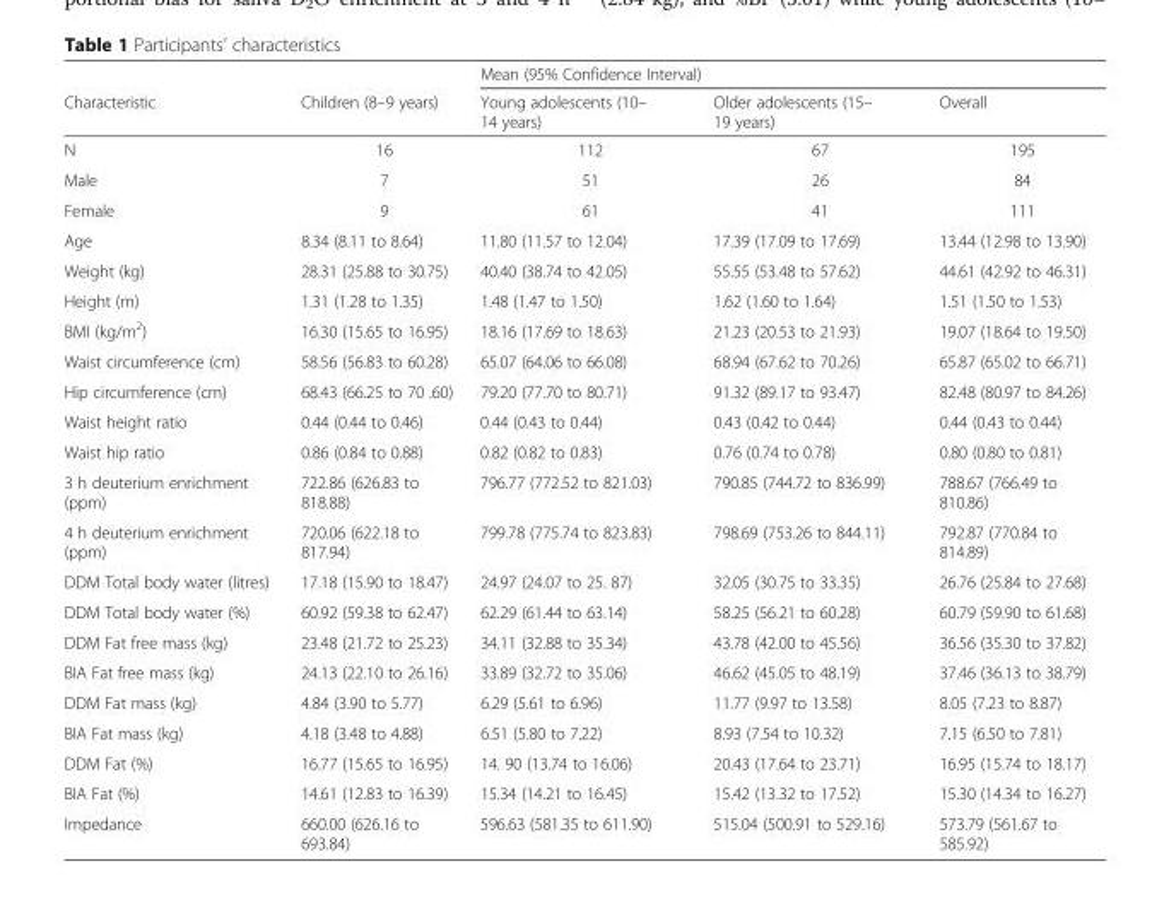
<table><thead><tr><td rowspan="2">Characteristic</td><td rowspan="2">Children (8–9 years)</td><td colspan="3">Mean (95% Confidence Interval)</td></tr><tr><td>Young adolescents (10– 14 years)</td><td>Older adolescents (15– 19 years)</td><td>Overall</td></tr></thead><tbody><tr><td>N</td><td>16</td><td>112</td><td>67</td><td>195</td></tr><tr><td>Male</td><td>7</td><td>51</td><td>26</td><td>84</td></tr><tr><td>Female</td><td>9</td><td>61</td><td>41</td><td>111</td></tr><tr><td>Age</td><td>8.34 (8.11 to 8.64)</td><td>11.80 (11.57 to 12.04)</td><td>17.39 (17.09 to 17.69)</td><td>13.44 (12.98 to 13.90)</td></tr><tr><td>Weight (kg)</td><td>28.31 (25.88 to 30.75)</td><td>40.40 (38.74 to 42.05)</td><td>55.55 (53.48 to 57.62)</td><td>44.61 (42.92 to 46.31)</td></tr><tr><td>Height (m)</td><td>1.31 (1.28 to 1.35)</td><td>1.48 (1.47 to 1.50)</td><td>1.62 (1.60 to 1.64)</td><td>1.51 (1.50 to 1.53)</td></tr><tr><td>BMI (kg/m<sup>2</sup>)</td><td>16.30 (15.65 to 16.95)</td><td>18.16 (17.69 to 18.63)</td><td>21.23 (20.53 to 21.93)</td><td>19.07 (18.64 to 19.50)</td></tr><tr><td>Waist circumference (cm)</td><td>58.56 (56.83 to 60.28)</td><td>65.07 (64.06 to 66.08)</td><td>68.94 (67.62 to 70.26)</td><td>65.87 (65.02 to 66.71)</td></tr><tr><td>Hip circumference (cm)</td><td>68.43 (66.25 to 70 .60)</td><td>79.20 (77.70 to 80.71)</td><td>91.32 (89.17 to 93.47)</td><td>82.48 (80.97 to 84.26)</td></tr><tr><td>Waist height ratio</td><td>0.44 (0.44 to 0.46)</td><td>0.44 (0.43 to 0.44)</td><td>0.43 (0.42 to 0.44)</td><td>0.44 (0.43 to 0.44)</td></tr><tr><td>Waist hip ratio</td><td>0.86 (0.84 to 0.88)</td><td>0.82 (0.82 to 0.83)</td><td>0.76 (0.74 to 0.78)</td><td>0.80 (0.80 to 0.81)</td></tr><tr><td>3 h deuterium enrichment (ppm)</td><td>722.86 (626.83 to 818.88)</td><td>796.77 (772.52 to 821.03)</td><td>790.85 (744.72 to 836.99)</td><td>788.67 (766.49 to 810.86)</td></tr><tr><td>4 h deuterium enrichment (ppm)</td><td>720.06 (622.18 to 817.94)</td><td>799.78 (775.74 to 823.83)</td><td>798.69 (753.26 to 844.11)</td><td>792.87 (770.84 to 814.89)</td></tr><tr><td>DDM Total body water (litres)</td><td>17.18 (15.90 to 18.47)</td><td>24.97 (24.07 to 25. 87)</td><td>32.05 (30.75 to 33.35)</td><td>26.76 (25.84 to 27.68)</td></tr><tr><td>DDM Total body water (%)</td><td>60.92 (59.38 to 62.47)</td><td>62.29 (61.44 to 63.14)</td><td>58.25 (56.21 to 60.28)</td><td>60.79 (59.90 to 61.68)</td></tr><tr><td>DDM Fat free mass (kg)</td><td>23.48 (21.72 to 25.23)</td><td>34.11 (32.88 to 35.34)</td><td>43.78 (42.00 to 45.56)</td><td>36.56 (35.30 to 37.82)</td></tr><tr><td>BIA Fat free mass (kg)</td><td>24.13 (22.10 to 26.16)</td><td>33.89 (32.72 to 35.06)</td><td>46.62 (45.05 to 48.19)</td><td>37.46 (36.13 to 38.79)</td></tr><tr><td>DDM Fat mass (kg)</td><td>4.84 (3.90 to 5.77)</td><td>6.29 (5.61 to 6.96)</td><td>11.77 (9.97 to 13.58)</td><td>8.05 (7.23 to 8.87)</td></tr><tr><td>BIA Fat mass (kg)</td><td>4.18 (3.48 to 4.88)</td><td>6.51 (5.80 to 7.22)</td><td>8.93 (7.54 to 10.32)</td><td>7.15 (6.50 to 7.81)</td></tr><tr><td>DDM Fat (%)</td><td>16.77 (15.65 to 16.95)</td><td>14. 90 (13.74 to 16.06)</td><td>20.43 (17.64 to 23.71)</td><td>16.95 (15.74 to 18.17)</td></tr><tr><td>BIA Fat (%)</td><td>14.61 (12.83 to 16.39)</td><td>15.34 (14.21 to 16.45)</td><td>15.42 (13.32 to 17.52)</td><td>15.30 (14.34 to 16.27)</td></tr><tr><td>Impedance</td><td>660.00 (626.16 to 693.84)</td><td>596.63 (581.35 to 611.90)</td><td>515.04 (500.91 to 529.16)</td><td>573.79 (561.67 to 585.92)</td></tr></tbody></table>